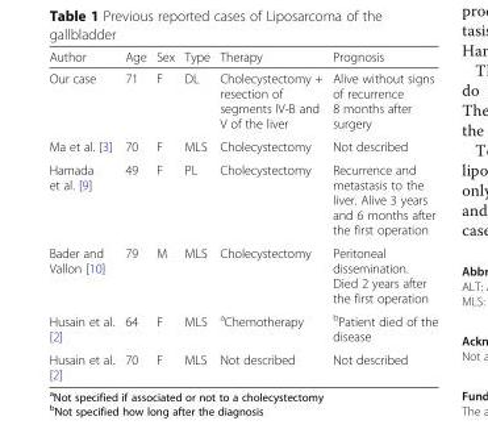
<table><thead><tr><td>Author</td><td>Age</td><td>Sex</td><td>Type</td><td>Therapy</td><td>Prognosis</td></tr></thead><tbody><tr><td>Our case</td><td>71</td><td>F</td><td>DL</td><td>Cholecystectomy + resection of segments IV-B and V of the liver</td><td>Alive without signs of recurrence 8 months after surgery</td></tr><tr><td>Ma et al. [3]</td><td>70</td><td>F</td><td>MLS</td><td>Cholecystectomy</td><td>Not described</td></tr><tr><td>Hamada et al. [9]</td><td>49</td><td>F</td><td>PL</td><td>Cholecystectomy</td><td>Recurrence and metastasis to the liver. Alive 3 years and 6 months after the first operation</td></tr><tr><td>Bader and Vallon [10]</td><td>79</td><td>M</td><td>MLS</td><td>Cholecystectomy</td><td>Peritoneal dissemination. Died 2 years after the first operation</td></tr><tr><td>Husain et al. [2]</td><td>64</td><td>F</td><td>MLS</td><td><sup>a</sup>Chemotherapy</td><td><sup>b</sup>Patient died of the disease</td></tr><tr><td>Husain et al. [2]</td><td>70</td><td>F</td><td>MLS</td><td>Not described</td><td>Not described</td></tr></tbody></table>